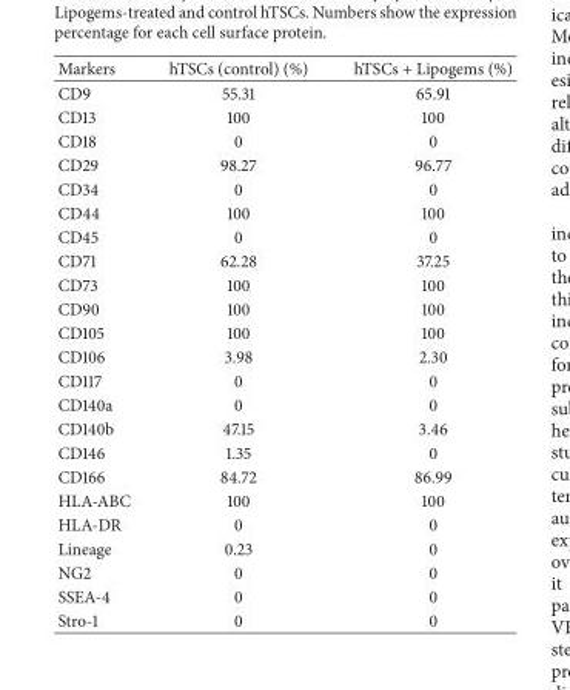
<table><thead><tr><td>Markers</td><td>hTSCs (control) (%)</td><td>hTSCs + Lipogems (%)</td></tr></thead><tbody><tr><td>CD9</td><td>55.31</td><td>65.91</td></tr><tr><td>CD13</td><td>100</td><td>100</td></tr><tr><td>CD18</td><td>0</td><td>0</td></tr><tr><td>CD29</td><td>98.27</td><td>96.77</td></tr><tr><td>CD34</td><td>0</td><td>0</td></tr><tr><td>CD44</td><td>100</td><td>100</td></tr><tr><td>CD45</td><td>0</td><td>0</td></tr><tr><td>CD71</td><td>62.28</td><td>37.25</td></tr><tr><td>CD73</td><td>100</td><td>100</td></tr><tr><td>CD90</td><td>100</td><td>100</td></tr><tr><td>CD105</td><td>100</td><td>100</td></tr><tr><td>CD106</td><td>3.98</td><td>2.30</td></tr><tr><td>CD117</td><td>0</td><td>0</td></tr><tr><td>CD140a</td><td>0</td><td>0</td></tr><tr><td>CD140b</td><td>47.15</td><td>3.46</td></tr><tr><td>CD146</td><td>1.35</td><td>0</td></tr><tr><td>CD166</td><td>84.72</td><td>86.99</td></tr><tr><td>HLA-ABC</td><td>100</td><td>100</td></tr><tr><td>HLA-DR</td><td>0</td><td>0</td></tr><tr><td>Lineage</td><td>0.23</td><td>0</td></tr><tr><td>NG2</td><td>0</td><td>0</td></tr><tr><td>SSEA-4</td><td>0</td><td>0</td></tr><tr><td>Stro-1</td><td>0</td><td>0</td></tr></tbody></table>